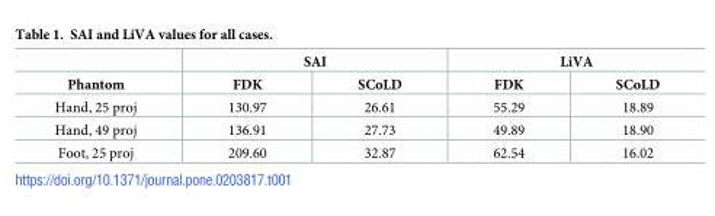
<table><thead><tr><td rowspan="2">Phantom</td><td colspan="2">SAI</td><td colspan="2">LiVA</td></tr><tr><td>FDK</td><td>SCoLD</td><td>FDK</td><td>SCoLD</td></tr></thead><tbody><tr><td>Hand, 25 proj</td><td>130.97</td><td>26.61</td><td>55.29</td><td>18.89</td></tr><tr><td>Hand, 49 proj</td><td>136.91</td><td>27.73</td><td>49.89</td><td>18.90</td></tr><tr><td>Foot, 25 proj</td><td>209.60</td><td>32.87</td><td>62.54</td><td>16.02</td></tr></tbody></table>